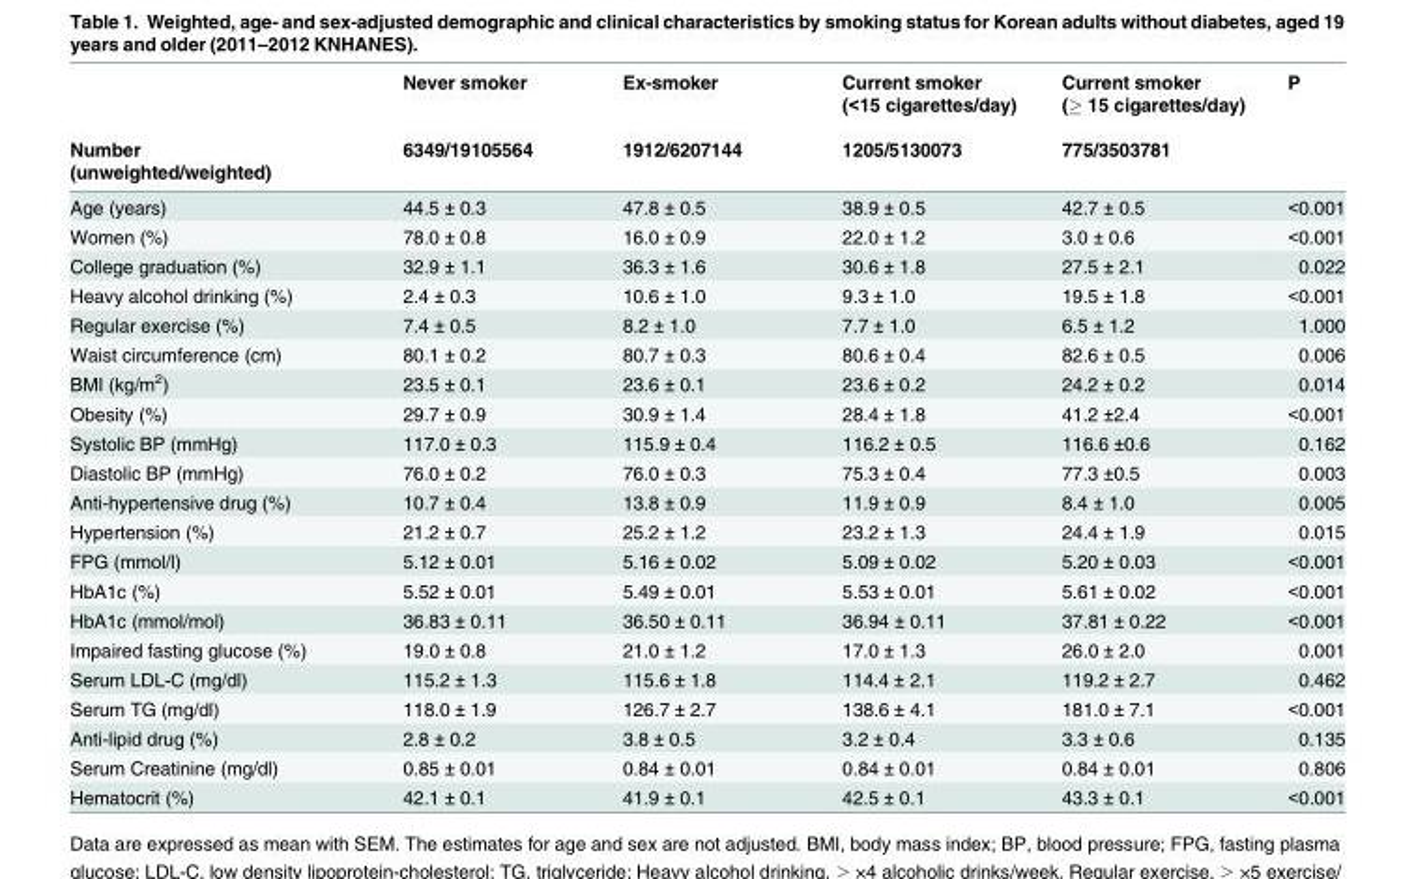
<table><thead><tr><td rowspan="2">Number (unweighted/weighted)</td><td rowspan="2">Never smoker 6349/19105564</td><td rowspan="2">Ex-smoker 1912/6207144</td><td rowspan="2">Current smoker (&lt;15 cigarettes/day) 1205/5130073</td><td rowspan="2">Current smoker (≥ 15 cigarettes/day) 775/3503781</td><td rowspan="2">P</td></tr><tr></tr></thead><tbody><tr><td>Age (years)</td><td>44.5 ± 0.3</td><td>47.8 ± 0.5</td><td>38.9 ± 0.5</td><td>42.7 ± 0.5</td><td>&lt;0.001</td></tr><tr><td>Women (%)</td><td>78.0 ± 0.8</td><td>16.0 ± 0.9</td><td>22.0 ± 1.2</td><td>3.0 ± 0.6</td><td>&lt;0.001</td></tr><tr><td>College graduation (%)</td><td>32.9 ± 1.1</td><td>36.3 ± 1.6</td><td>30.6 ± 1.8</td><td>27.5 ± 2.1</td><td>0.022</td></tr><tr><td>Heavy alcohol drinking (%)</td><td>2.4 ± 0.3</td><td>10.6 ± 1.0</td><td>9.3 ± 1.0</td><td>19.5 ± 1.8</td><td>&lt;0.001</td></tr><tr><td>Regular exercise (%)</td><td>7.4 ± 0.5</td><td>8.2 ± 1.0</td><td>7.7 ± 1.0</td><td>6.5 ± 1.2</td><td>1.000</td></tr><tr><td>Waist circumference (cm)</td><td>80.1 ± 0.2</td><td>80.7 ± 0.3</td><td>80.6 ± 0.4</td><td>82.6 ± 0.5</td><td>0.006</td></tr><tr><td>BMI (kg/m<sup>2</sup>)</td><td>23.5 ± 0.1</td><td>23.6 ± 0.1</td><td>23.6 ± 0.2</td><td>24.2 ± 0.2</td><td>0.014</td></tr><tr><td>Obesity (%)</td><td>29.7 ± 0.9</td><td>30.9 ± 1.4</td><td>28.4 ± 1.8</td><td>41.2 ±2.4</td><td>&lt;0.001</td></tr><tr><td>Systolic BP (mmHg)</td><td>117.0 ± 0.3</td><td>115.9 ± 0.4</td><td>116.2 ± 0.5</td><td>116.6 ±0.6</td><td>0.162</td></tr><tr><td>Diastolic BP (mmHg)</td><td>76.0 ± 0.2</td><td>76.0 ± 0.3</td><td>75.3 ± 0.4</td><td>77.3 ±0.5</td><td>0.003</td></tr><tr><td>Anti-hypertensive drug (%)</td><td>10.7 ± 0.4</td><td>13.8 ± 0.9</td><td>11.9 ± 0.9</td><td>8.4 ± 1.0</td><td>0.005</td></tr><tr><td>Hypertension (%)</td><td>21.2 ± 0.7</td><td>25.2 ± 1.2</td><td>23.2 ± 1.3</td><td>24.4 ± 1.9</td><td>0.015</td></tr><tr><td>FPG (mmol/l)</td><td>5.12 ± 0.01</td><td>5.16 ± 0.02</td><td>5.09 ± 0.02</td><td>5.20 ± 0.03</td><td>&lt;0.001</td></tr><tr><td>HbA1c (%)</td><td>5.52 ± 0.01</td><td>5.49 ± 0.01</td><td>5.53 ± 0.01</td><td>5.61 ± 0.02</td><td>&lt;0.001</td></tr><tr><td>HbA1c (mmol/mol)</td><td>36.83 ± 0.11</td><td>36.50 ± 0.11</td><td>36.94 ± 0.11</td><td>37.81 ± 0.22</td><td>&lt;0.001</td></tr><tr><td>Impaired fasting glucose (%)</td><td>19.0 ± 0.8</td><td>21.0 ± 1.2</td><td>17.0 ± 1.3</td><td>26.0 ± 2.0</td><td>0.001</td></tr><tr><td>Serum LDL-C (mg/dl)</td><td>115.2 ± 1.3</td><td>115.6 ± 1.8</td><td>114.4 ± 2.1</td><td>119.2 ± 2.7</td><td>0.462</td></tr><tr><td>Serum TG (mg/dl)</td><td>118.0 ± 1.9</td><td>126.7 ± 2.7</td><td>138.6 ± 4.1</td><td>181.0 ± 7.1</td><td>&lt;0.001</td></tr><tr><td>Anti-lipid drug (%)</td><td>2.8 ± 0.2</td><td>3.8 ± 0.5</td><td>3.2 ± 0.4</td><td>3.3 ± 0.6</td><td>0.135</td></tr><tr><td>Serum Creatinine (mg/dl)</td><td>0.85 ± 0.01</td><td>0.84 ± 0.01</td><td>0.84 ± 0.01</td><td>0.84 ± 0.01</td><td>0.806</td></tr><tr><td>Hematocrit (%)</td><td>42.1 ± 0.1</td><td>41.9 ± 0.1</td><td>42.5 ± 0.1</td><td>43.3 ± 0.1</td><td>&lt;0.001</td></tr></tbody></table>